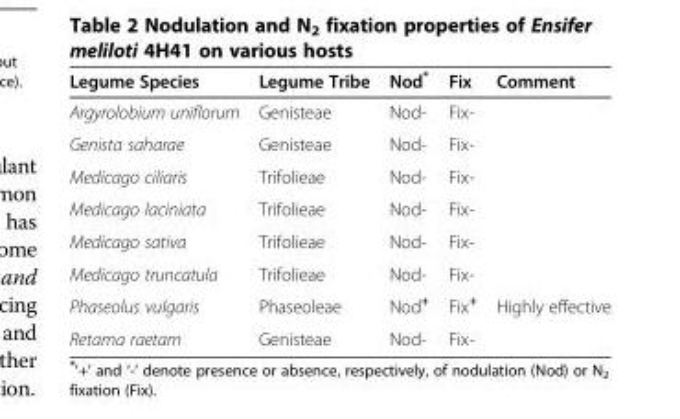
<table><thead><tr><td>Legume Species</td><td>Legume Tribe</td><td>Nod*</td><td>Fix</td><td>Comment</td></tr></thead><tbody><tr><td>Argyrolobium uniflorum</td><td>Genisteae</td><td>Nod-</td><td>Fix-</td><td></td></tr><tr><td>Genista saharae</td><td>Genisteae</td><td>Nod-</td><td>Fix-</td><td></td></tr><tr><td>Medicago ciliaris</td><td>Trifolieae</td><td>Nod-</td><td>Fix-</td><td></td></tr><tr><td>Medicago laciniata</td><td>Trifolieae</td><td>Nod-</td><td>Fix-</td><td></td></tr><tr><td>Medicago sativa</td><td>Trifolieae</td><td>Nod-</td><td>Fix-</td><td></td></tr><tr><td>Medicago truncatula</td><td>Trifolieae</td><td>Nod-</td><td>Fix-</td><td></td></tr><tr><td>Phaseolus vulgaris</td><td>Phaseoleae</td><td>Nod<sup>+</sup></td><td>Fix<sup>+</sup></td><td>Highly effective</td></tr><tr><td>Retama raetam</td><td>Genisteae</td><td>Nod-</td><td>Fix-</td><td></td></tr></tbody></table>